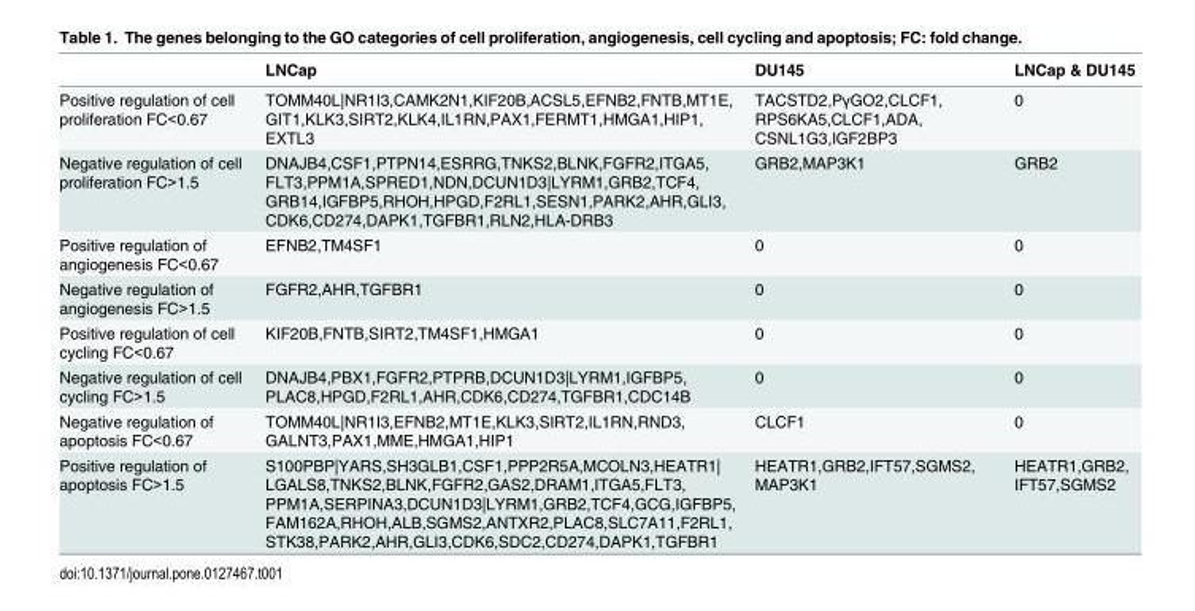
<table><thead><tr><td></td><td>LNCap</td><td>DU145</td><td>LNCap &amp; DU145</td></tr></thead><tbody><tr><td>Positive regulation of cell proliferation FC&lt;0.67</td><td>TOMM40L|NR1I3,CAMK2N1,KIF20B,ACSL5,EFNB2,FNTB,MT1E, GIT1,KLK3,SIRT2,KLK4,IL1RN,PAX1,FERMT1,HMGA1,HIP1, EXTL3</td><td>TACSTD2,PγGO2,CLCF1, RPS6KA5,CLCF1,ADA, CSNL1G3,IGF2BP3</td><td>0</td></tr><tr><td>Negative regulation of cell proliferation FC&gt;1.5</td><td>DNAJB4,CSF1,PTPN14,ESRRG,TNKS2,BLNK,FGFR2,ITGA5, FLT3,PPM1A,SPRED1,NDN,DCUN1D3|LYRM1,GRB2,TCF4, GRB14,IGFBP5,RHOH,HPGD,F2RL1,SESN1,PARK2,AHR,GLI3, CDK6,CD274,DAPK1,TGFBR1,RLN2,HLA-DRB3</td><td>GRB2,MAP3K1</td><td>GRB2</td></tr><tr><td>Positive regulation of angiogenesis FC&lt;0.67</td><td>EFNB2,TM4SF1</td><td>0</td><td>0</td></tr><tr><td>Negative regulation of angiogenesis FC&gt;1.5</td><td>FGFR2,AHR,TGFBR1</td><td>0</td><td>0</td></tr><tr><td>Positive regulation of cell cycling FC&lt;0.67</td><td>KIF20B,FNTB,SIRT2,TM4SF1,HMGA1</td><td>0</td><td>0</td></tr><tr><td>Negative regulation of cell cycling FC&gt;1.5</td><td>DNAJB4,PBX1,FGFR2,PTPRB,DCUN1D3|LYRM1,IGFBP5, PLAC8,HPGD,F2RL1,AHR,CDK6,CD274,TGFBR1,CDC14B</td><td>0</td><td>0</td></tr><tr><td>Negative regulation of apoptosis FC&lt;0.67</td><td>TOMM40L|NR1I3,EFNB2,MT1E,KLK3,SIRT2,IL1RN,RND3, GALNT3,PAX1,MME,HMGA1,HIP1</td><td>CLCF1</td><td>0</td></tr><tr><td>Positive regulation of apoptosis FC&gt;1.5</td><td>S100PBP|YARS,SH3GLB1,CSF1,PPP2R5A,MCOLN3,HEATR1| LGALS8,TNKS2,BLNK,FGFR2,GAS2,DRAM1,ITGA5,FLT3, PPM1A,SERPINA3,DCUN1D3|LYRM1,GRB2,TCF4,GCG,IGFBP5, FAM162A,RHOH,ALB,SGMS2,ANTXR2,PLAC8,SLC7A11,F2RL1, STK38,PARK2,AHR,GLI3,CDK6,SDC2,CD274,DAPK1,TGFBR1</td><td>HEATR1,GRB2,IFT57,SGMS2, MAP3K1</td><td>HEATR1,GRB2, IFT57,SGMS2</td></tr></tbody></table>